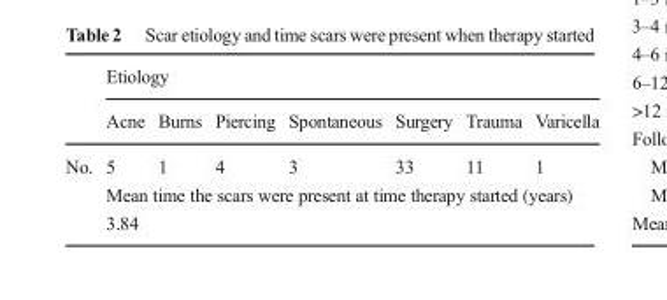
<table><thead><tr><td rowspan="2"></td><td colspan="7">Etiology</td></tr><tr><td>Acne</td><td>Burns</td><td>Piercing</td><td>Spontaneous</td><td>Surgery</td><td>Trauma</td><td>Varicella</td></tr></thead><tbody><tr><td rowspan="3">No.</td><td>5</td><td>1</td><td>4</td><td>3</td><td>33</td><td>11</td><td>1</td></tr><tr><td colspan="7">Mean time the scars were present at time therapy started (years)</td></tr><tr><td colspan="7">3.84</td></tr></tbody></table>